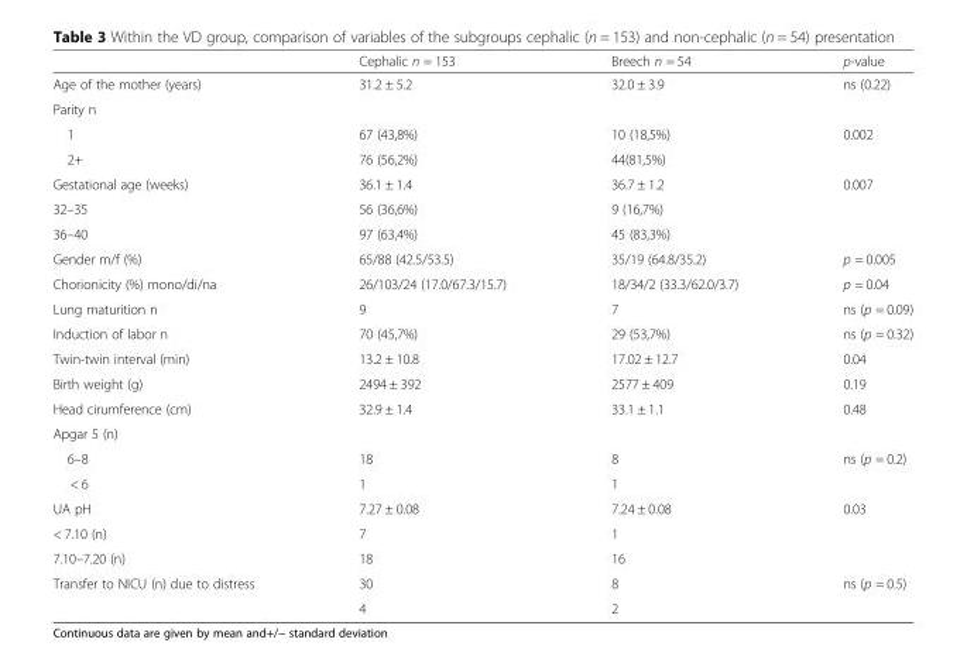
<table><thead><tr><td></td><td>Cephalic n = 153</td><td>Breech n = 54</td><td>p-value</td></tr></thead><tbody><tr><td>Age of the mother (years)</td><td>31.2 ± 5.2</td><td>32.0 ± 3.9</td><td>ns (0.22)</td></tr><tr><td colspan="4">Parity n</td></tr><tr><td>1</td><td>67 (43,8%)</td><td>10 (18,5%)</td><td rowspan="2">0.002</td></tr><tr><td>2+</td><td>76 (56,2%)</td><td>44(81,5%)</td></tr><tr><td>Gestational age (weeks)</td><td>36.1 ± 1.4</td><td>36.7 ± 1.2</td><td rowspan="3">0.007</td></tr><tr><td>32–35</td><td>56 (36,6%)</td><td>9 (16,7%)</td></tr><tr><td>36–40</td><td>97 (63,4%)</td><td>45 (83,3%)</td></tr><tr><td>Gender m/f (%)</td><td>65/88 (42.5/53.5)</td><td>35/19 (64.8/35.2)</td><td>p = 0.005</td></tr><tr><td>Chorionicity (%) mono/di/na</td><td>26/103/24 (17.0/67.3/15.7)</td><td>18/34/2 (33.3/62.0/3.7)</td><td>p = 0.04</td></tr><tr><td>Lung maturition n</td><td>9</td><td>7</td><td>ns (p = 0.09)</td></tr><tr><td>Induction of labor n</td><td>70 (45,7%)</td><td>29 (53,7%)</td><td>ns (p = 0.32)</td></tr><tr><td>Twin-twin interval (min)</td><td>13.2 ± 10.8</td><td>17.02 ± 12.7</td><td>0.04</td></tr><tr><td>Birth weight (g)</td><td>2494 ± 392</td><td>2577 ± 409</td><td>0.19</td></tr><tr><td>Head cirumference (cm)</td><td>32.9 ± 1.4</td><td>33.1 ± 1.1</td><td>0.48</td></tr><tr><td colspan="4">Apgar 5 (n)</td></tr><tr><td>6–8</td><td>18</td><td>8</td><td rowspan="2">ns (p = 0.2)</td></tr><tr><td>&lt; 6</td><td>1</td><td>1</td></tr><tr><td>UA pH</td><td>7.27 ± 0.08</td><td>7.24 ± 0.08</td><td rowspan="3">0.03</td></tr><tr><td>&lt; 7.10 (n)</td><td>7</td><td>1</td></tr><tr><td>7.10–7.20 (n)</td><td>18</td><td>16</td></tr><tr><td rowspan="2">Transfer to NICU (n) due to distress</td><td>30</td><td>8</td><td rowspan="2">ns (p = 0.5)</td></tr><tr><td>4</td><td>2</td></tr></tbody></table>